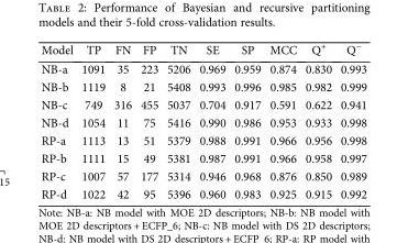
<table><thead><tr><td>Model</td><td>TP</td><td>FN</td><td>FP</td><td>TN</td><td>SE</td><td>SP</td><td>MCC</td><td>Q<sup>+</sup></td><td>Q<sup>−</sup></td></tr></thead><tbody><tr><td>NB-a</td><td>1091</td><td>35</td><td>223</td><td>5206</td><td>0.969</td><td>0.959</td><td>0.874</td><td>0.830</td><td>0.993</td></tr><tr><td>NB-b</td><td>1119</td><td>8</td><td>21</td><td>5408</td><td>0.993</td><td>0.996</td><td>0.985</td><td>0.982</td><td>0.999</td></tr><tr><td>NB-c</td><td>749</td><td>316</td><td>455</td><td>5037</td><td>0.704</td><td>0.917</td><td>0.591</td><td>0.622</td><td>0.941</td></tr><tr><td>NB-d</td><td>1054</td><td>11</td><td>75</td><td>5416</td><td>0.990</td><td>0.986</td><td>0.953</td><td>0.933</td><td>0.998</td></tr><tr><td>RP-a</td><td>1113</td><td>13</td><td>51</td><td>5379</td><td>0.988</td><td>0.991</td><td>0.966</td><td>0.956</td><td>0.998</td></tr><tr><td>RP-b</td><td>1111</td><td>15</td><td>49</td><td>5381</td><td>0.987</td><td>0.991</td><td>0.966</td><td>0.958</td><td>0.997</td></tr><tr><td>RP-c</td><td>1007</td><td>57</td><td>177</td><td>5314</td><td>0.946</td><td>0.968</td><td>0.876</td><td>0.850</td><td>0.989</td></tr><tr><td>RP-d</td><td>1022</td><td>42</td><td>95</td><td>5396</td><td>0.960</td><td>0.983</td><td>0.925</td><td>0.915</td><td>0.992</td></tr></tbody></table>